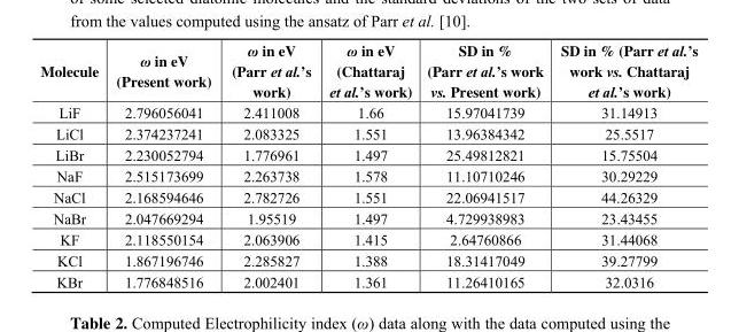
<table><thead><tr><td>Molecule</td><td>ω in eV (Present work)</td><td>ω in eV (Parr et al.’s work)</td><td>ω in eV (Chattaraj et al.’s work)</td><td>SD in % (Parr et al.’s work vs. Present work)</td><td>SD in % (Parr et al.’s work vs. Chattaraj et al.’s work)</td></tr></thead><tbody><tr><td>LiF</td><td>2.796056041</td><td>2.411008</td><td>1.66</td><td>15.97041739</td><td>31.14913</td></tr><tr><td>LiCl</td><td>2.374237241</td><td>2.083325</td><td>1.551</td><td>13.96384342</td><td>25.5517</td></tr><tr><td>LiBr</td><td>2.230052794</td><td>1.776961</td><td>1.497</td><td>25.49812821</td><td>15.75504</td></tr><tr><td>NaF</td><td>2.515173699</td><td>2.263738</td><td>1.578</td><td>11.10710246</td><td>30.29229</td></tr><tr><td>NaCl</td><td>2.168594646</td><td>2.782726</td><td>1.551</td><td>22.06941517</td><td>44.26329</td></tr><tr><td>NaBr</td><td>2.047669294</td><td>1.95519</td><td>1.497</td><td>4.729938983</td><td>23.43455</td></tr><tr><td>KF</td><td>2.118550154</td><td>2.063906</td><td>1.415</td><td>2.64760866</td><td>31.44068</td></tr><tr><td>KCl</td><td>1.867196746</td><td>2.285827</td><td>1.388</td><td>18.31417049</td><td>39.27799</td></tr><tr><td>KBr</td><td>1.776848516</td><td>2.002401</td><td>1.361</td><td>11.26410165</td><td>32.0316</td></tr></tbody></table>